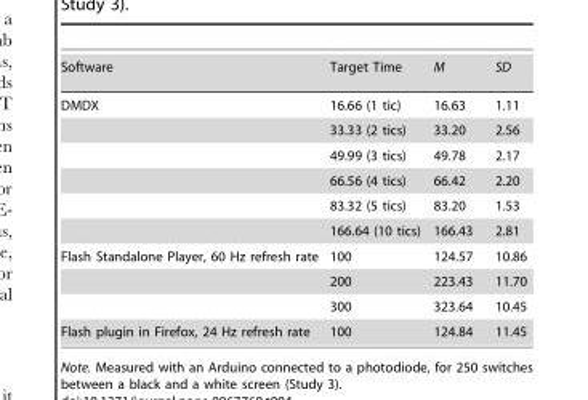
<table><tbody><tr><td>Software</td><td>Target Time</td><td>M</td><td>SD</td></tr><tr><td rowspan="6">DMDX</td><td>16.66 (1 tic)</td><td>16.63</td><td>1.11</td></tr><tr><td>33.33 (2 tics)</td><td>33.20</td><td>2.56</td></tr><tr><td>49.99 (3 tics)</td><td>49.78</td><td>2.17</td></tr><tr><td>66.56 (4 tics)</td><td>66.42</td><td>2.20</td></tr><tr><td>83.32 (5 tics)</td><td>83.20</td><td>1.53</td></tr><tr><td>166.64 (10 tics)</td><td>166.43</td><td>2.81</td></tr><tr><td rowspan="3">Flash Standalone Player, 60 Hz refresh rate</td><td>100</td><td>124.57</td><td>10.86</td></tr><tr><td>200</td><td>223.43</td><td>11.70</td></tr><tr><td>300</td><td>323.64</td><td>10.45</td></tr><tr><td>Flash plugin in Firefox, 24 Hz refresh rate</td><td>100</td><td>124.84</td><td>11.45</td></tr></tbody></table>